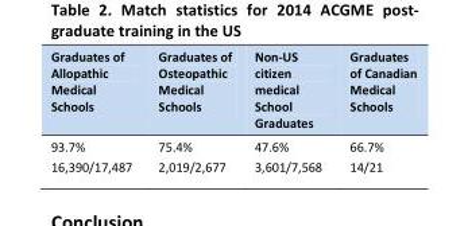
<table><thead><tr><td>Graduates of Allopathic Medical Schools</td><td>Graduates of Osteopathic Medical Schools</td><td>Non-US citizen medical School Graduates</td><td>Graduates of Canadian Medical Schools</td></tr></thead><tbody><tr><td>93.7% 16,390/17,487</td><td>75.4% 2,019/2,677</td><td>47.6% 3,601/7,568</td><td>66.7% 14/21</td></tr></tbody></table>